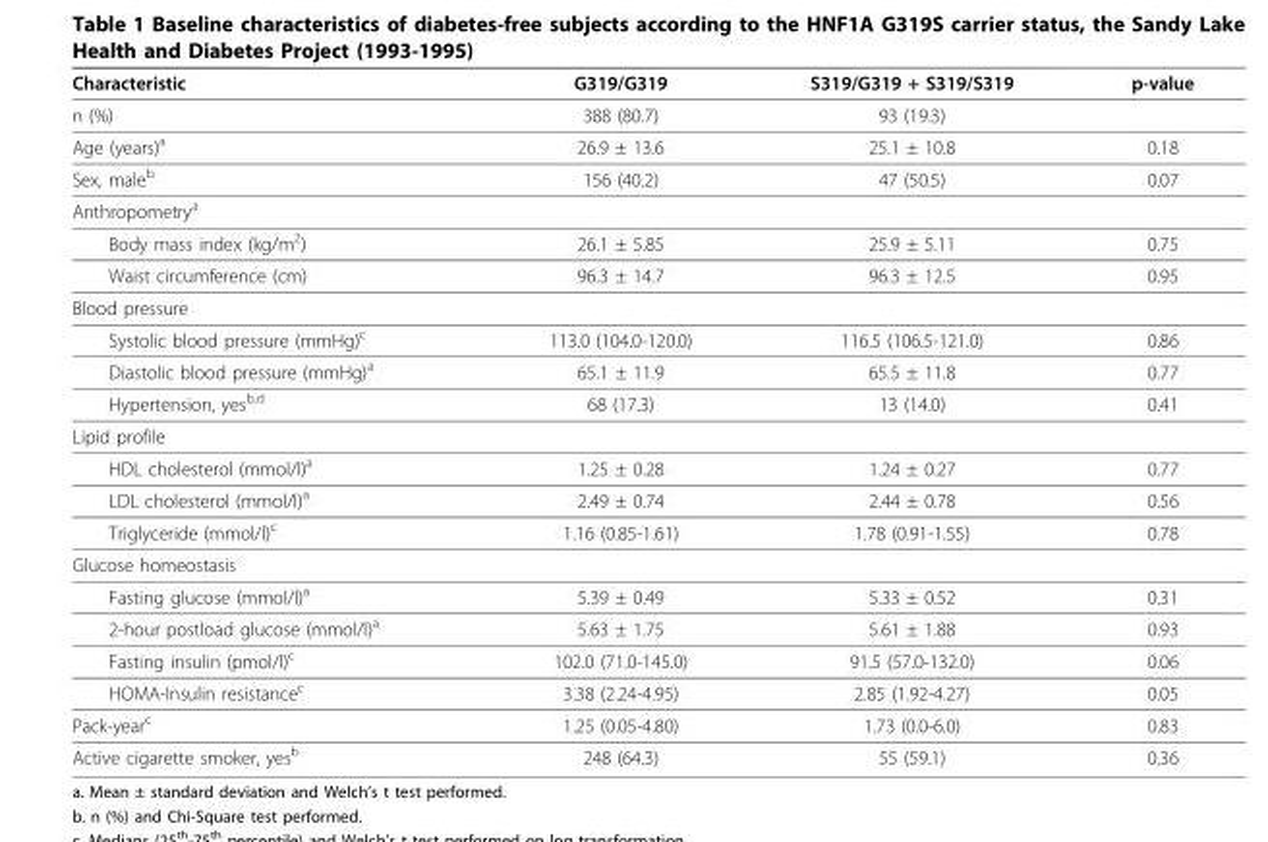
<table><thead><tr><td>Characteristic</td><td>G319/G319</td><td>S319/G319 + S319/S319</td><td>p-value</td></tr></thead><tbody><tr><td>n (%)</td><td>388 (80.7)</td><td>93 (19.3)</td><td></td></tr><tr><td>Age (years)<sup>a</sup></td><td>26.9 ± 13.6</td><td>25.1 ± 10.8</td><td>0.18</td></tr><tr><td>Sex, male<sup>b</sup></td><td>156 (40.2)</td><td>47 (50.5)</td><td>0.07</td></tr><tr><td colspan="4">Anthropometry<sup>a</sup></td></tr><tr><td>Body mass index (kg/m<sup>2</sup>)</td><td>26.1 ± 5.85</td><td>25.9 ± 5.11</td><td>0.75</td></tr><tr><td>Waist circumference (cm)</td><td>96.3 ± 14.7</td><td>96.3 ± 12.5</td><td>0.95</td></tr><tr><td colspan="4">Blood pressure</td></tr><tr><td>Systolic blood pressure (mmHg)<sup>c</sup></td><td>113.0 (104.0-120.0)</td><td>116.5 (106.5-121.0)</td><td>0.86</td></tr><tr><td>Diastolic blood pressure (mmHg)<sup>a</sup></td><td>65.1 ± 11.9</td><td>65.5 ± 11.8</td><td>0.77</td></tr><tr><td>Hypertension, yes<sup>b,d</sup></td><td>68 (17.3)</td><td>13 (14.0)</td><td>0.41</td></tr><tr><td colspan="4">Lipid profile</td></tr><tr><td>HDL cholesterol (mmol/l)<sup>a</sup></td><td>1.25 ± 0.28</td><td>1.24 ± 0.27</td><td>0.77</td></tr><tr><td>LDL cholesterol (mmol/l)<sup>a</sup></td><td>2.49 ± 0.74</td><td>2.44 ± 0.78</td><td>0.56</td></tr><tr><td>Triglyceride (mmol/l)<sup>c</sup></td><td>1.16 (0.85-1.61)</td><td>1.78 (0.91-1.55)</td><td>0.78</td></tr><tr><td colspan="4">Glucose homeostasis</td></tr><tr><td>Fasting glucose (mmol/l)<sup>a</sup></td><td>5.39 ± 0.49</td><td>5.33 ± 0.52</td><td>0.31</td></tr><tr><td>2-hour postload glucose (mmol/l)<sup>a</sup></td><td>5.63 ± 1.75</td><td>5.61 ± 1.88</td><td>0.93</td></tr><tr><td>Fasting insulin (pmol/l)<sup>c</sup></td><td>102.0 (71.0-145.0)</td><td>91.5 (57.0-132.0)</td><td>0.06</td></tr><tr><td>HOMA-Insulin resistance<sup>c</sup></td><td>3.38 (2.24-4.95)</td><td>2.85 (1.92-4.27)</td><td>0.05</td></tr><tr><td>Pack-year<sup>c</sup></td><td>1.25 (0.05-4.80)</td><td>1.73 (0.0-6.0)</td><td>0.83</td></tr><tr><td>Active cigarette smoker, yes<sup>b</sup></td><td>248 (64.3)</td><td>55 (59.1)</td><td>0.36</td></tr></tbody></table>